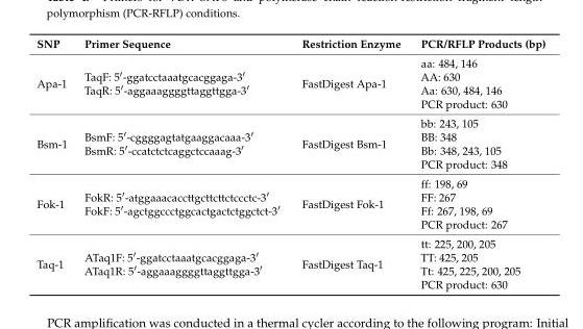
<table><thead><tr><td>SNP</td><td>Primer Sequence</td><td>Restriction Enzyme</td><td>PCR/RFLP Products (bp)</td></tr></thead><tbody><tr><td>Apa-1</td><td>TaqF: 5′-ggatcctaaatgcacggaga-3′ TaqR: 5′-aggaaaggggttaggttgga-3′</td><td>FastDigest Apa-1</td><td>aa: 484, 146 AA: 630 Aa: 630, 484, 146 PCR product: 630</td></tr><tr><td>Bsm-1</td><td>BsmF: 5′-cggggagtatgaaggacaaa-3′ BsmR: 5′-ccatctctcaggctccaaag-3′</td><td>FastDigest Bsm-1</td><td>bb: 243, 105 BB: 348 Bb: 348, 243, 105 PCR product: 348</td></tr><tr><td>Fok-1</td><td>FokR: 5′-atggaaacaccttgcttcttctccctc-3′ FokF: 5′-agctggccctggcactgactctggctct-3′</td><td>FastDigest Fok-1</td><td>ff: 198, 69 FF: 267 Ff: 267, 198, 69 PCR product: 267</td></tr><tr><td>Taq-1</td><td>ATaq1F: 5′-ggatcctaaatgcacggaga-3′ ATaq1R: 5′-aggaaaggggttaggttgga-3′</td><td>FastDigest Taq-1</td><td>tt: 225, 200, 205 TT: 425, 205 Tt: 425, 225, 200, 205 PCR product: 630</td></tr></tbody></table>